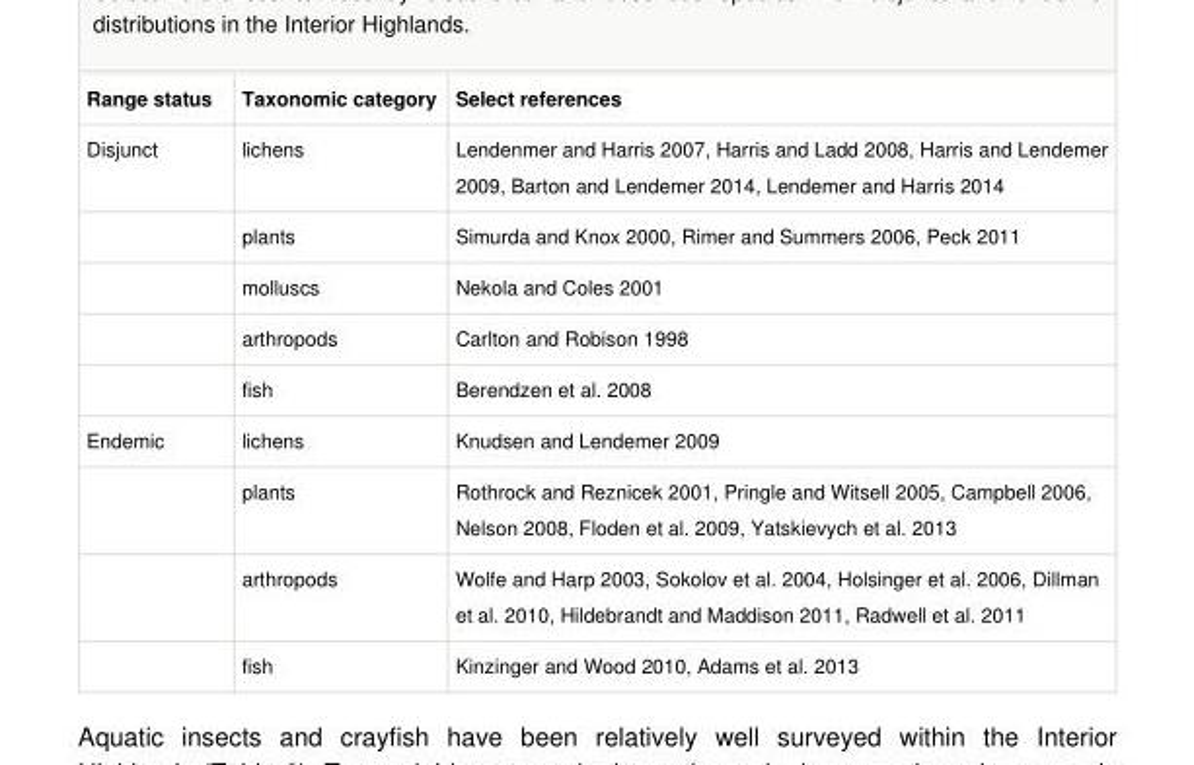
<table><tbody><tr><td>Range status</td><td>Taxonomic category</td><td>Select references</td></tr><tr><td rowspan="5">Disjunct</td><td>lichens</td><td>Lendenmer and Harris 2007, Harris and Ladd 2008, Harris and Lendemer 2009, Barton and Lendemer 2014, Lendemer and Harris 2014</td></tr><tr><td>plants</td><td>Simurda and Knox 2000, Rimer and Summers 2006, Peck 2011</td></tr><tr><td>molluscs</td><td>Nekola and Coles 2001</td></tr><tr><td>arthropods</td><td>Carlton and Robison 1998</td></tr><tr><td>fish</td><td>Berendzen et al. 2008</td></tr><tr><td rowspan="4">Endemic</td><td>lichens</td><td>Knudsen and Lendemer 2009</td></tr><tr><td>plants</td><td>Rothrock and Reznicek 2001, Pringle and Witsell 2005, Campbell 2006, Nelson 2008, Floden et al. 2009, Yatskievych et al. 2013</td></tr><tr><td>arthropods</td><td>Wolfe and Harp 2003, Sokolov et al. 2004, Holsinger et al. 2006, Dillman et al. 2010, Hildebrandt and Maddison 2011, Radwell et al. 2011</td></tr><tr><td>fish</td><td>Kinzinger and Wood 2010, Adams et al. 2013</td></tr></tbody></table>